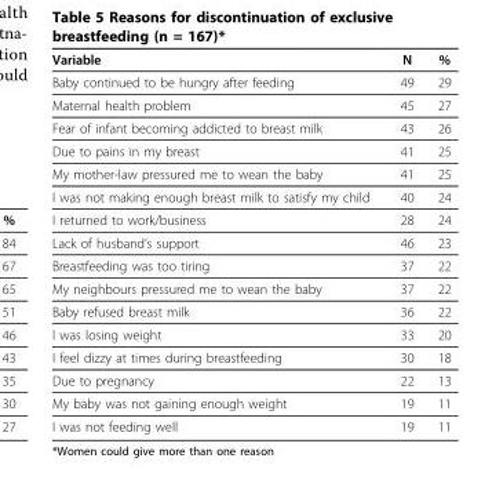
<table><thead><tr><td>Variable</td><td>N</td><td>%</td></tr></thead><tbody><tr><td>Baby continued to be hungry after feeding</td><td>49</td><td>29</td></tr><tr><td>Maternal health problem</td><td>45</td><td>27</td></tr><tr><td>Fear of infant becoming addicted to breast milk</td><td>43</td><td>26</td></tr><tr><td>Due to pains in my breast</td><td>41</td><td>25</td></tr><tr><td>My mother-law pressured me to wean the baby</td><td>41</td><td>25</td></tr><tr><td>I was not making enough breast milk to satisfy my child</td><td>40</td><td>24</td></tr><tr><td>I returned to work/business</td><td>28</td><td>24</td></tr><tr><td>Lack of husband’s support</td><td>46</td><td>23</td></tr><tr><td>Breastfeeding was too tiring</td><td>37</td><td>22</td></tr><tr><td>My neighbours pressured me to wean the baby</td><td>37</td><td>22</td></tr><tr><td>Baby refused breast milk</td><td>36</td><td>22</td></tr><tr><td>I was losing weight</td><td>33</td><td>20</td></tr><tr><td>I feel dizzy at times during breastfeeding</td><td>30</td><td>18</td></tr><tr><td>Due to pregnancy</td><td>22</td><td>13</td></tr><tr><td>My baby was not gaining enough weight</td><td>19</td><td>11</td></tr><tr><td>I was not feeding well</td><td>19</td><td>11</td></tr></tbody></table>